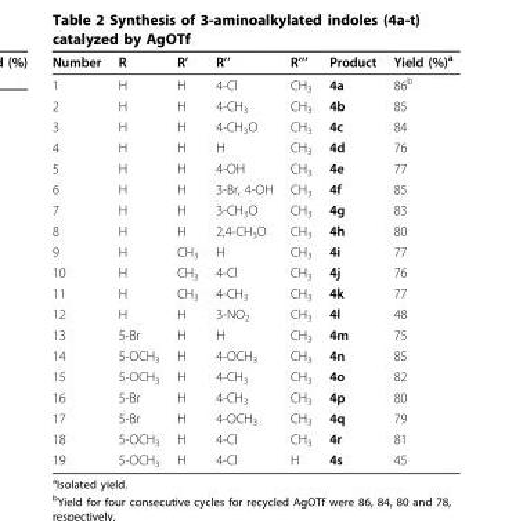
<table><thead><tr><td>Number</td><td>R</td><td>R’</td><td>R’’</td><td>R’’’</td><td>Product</td><td>Yield (%)<sup>a</sup></td></tr></thead><tbody><tr><td>1</td><td>H</td><td>H</td><td>4-Cl</td><td>CH<sub>3</sub></td><td>4a</td><td>86<sup>b</sup></td></tr><tr><td>2</td><td>H</td><td>H</td><td>4-CH<sub>3</sub></td><td>CH<sub>3</sub></td><td>4b</td><td>85</td></tr><tr><td>3</td><td>H</td><td>H</td><td>4-CH<sub>3</sub>O</td><td>CH<sub>3</sub></td><td>4c</td><td>84</td></tr><tr><td>4</td><td>H</td><td>H</td><td>H</td><td>CH<sub>3</sub></td><td>4d</td><td>76</td></tr><tr><td>5</td><td>H</td><td>H</td><td>4-OH</td><td>CH<sub>3</sub></td><td>4e</td><td>77</td></tr><tr><td>6</td><td>H</td><td>H</td><td>3-Br, 4-OH</td><td>CH<sub>3</sub></td><td>4f</td><td>85</td></tr><tr><td>7</td><td>H</td><td>H</td><td>3-CH<sub>3</sub>O</td><td>CH<sub>3</sub></td><td>4g</td><td>83</td></tr><tr><td>8</td><td>H</td><td>H</td><td>2,4-CH<sub>3</sub>O</td><td>CH<sub>3</sub></td><td>4h</td><td>80</td></tr><tr><td>9</td><td>H</td><td>CH<sub>3</sub></td><td>H</td><td>CH<sub>3</sub></td><td>4i</td><td>77</td></tr><tr><td>10</td><td>H</td><td>CH<sub>3</sub></td><td>4-Cl</td><td>CH<sub>3</sub></td><td>4j</td><td>76</td></tr><tr><td>11</td><td>H</td><td>CH<sub>3</sub></td><td>4-CH<sub>3</sub></td><td>CH<sub>3</sub></td><td>4k</td><td>77</td></tr><tr><td>12</td><td>H</td><td>H</td><td>3-NO<sub>2</sub></td><td>CH<sub>3</sub></td><td>4l</td><td>48</td></tr><tr><td>13</td><td>5-Br</td><td>H</td><td>H</td><td>CH<sub>3</sub></td><td>4m</td><td>75</td></tr><tr><td>14</td><td>5-OCH<sub>3</sub></td><td>H</td><td>4-OCH<sub>3</sub></td><td>CH<sub>3</sub></td><td>4n</td><td>85</td></tr><tr><td>15</td><td>5-OCH<sub>3</sub></td><td>H</td><td>4-CH<sub>3</sub></td><td>CH<sub>3</sub></td><td>4o</td><td>82</td></tr><tr><td>16</td><td>5-Br</td><td>H</td><td>4-CH<sub>3</sub></td><td>CH<sub>3</sub></td><td>4p</td><td>80</td></tr><tr><td>17</td><td>5-Br</td><td>H</td><td>4-OCH<sub>3</sub></td><td>CH<sub>3</sub></td><td>4q</td><td>79</td></tr><tr><td>18</td><td>5-OCH<sub>3</sub></td><td>H</td><td>4-Cl</td><td>CH<sub>3</sub></td><td>4r</td><td>81</td></tr><tr><td>19</td><td>5-OCH<sub>3</sub></td><td>H</td><td>4-Cl</td><td>H</td><td>4s</td><td>45</td></tr></tbody></table>